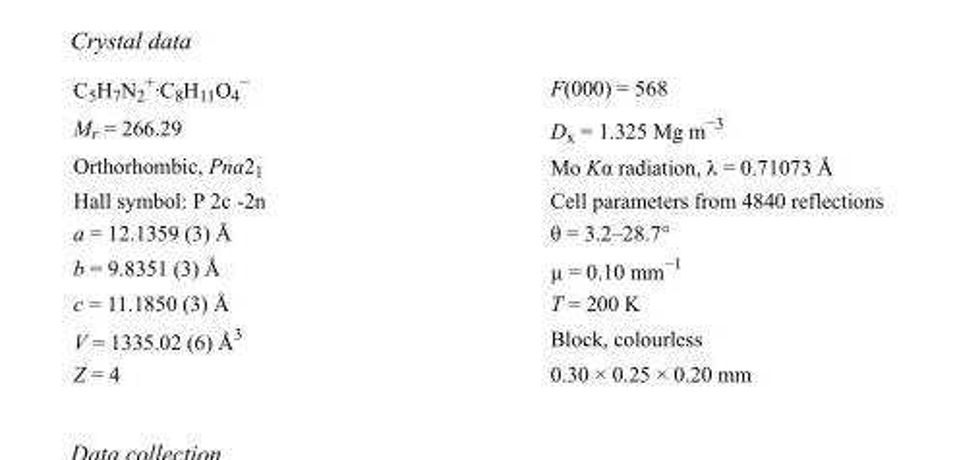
<table><tbody><tr><td>C<sub>5</sub>H<sub>7</sub>N<sub>2</sub> <sup>+</sup>·C<sub>8</sub>H<sub>11</sub>O<sub>4</sub> <sup>−</sup></td><td>F(000) = 568</td></tr><tr><td>M<sub>r</sub> = 266.29</td><td>D<sub>x</sub> = 1.325 Mg m<sup>−3</sup></td></tr><tr><td>Orthorhombic, Pna2<sub>1</sub></td><td>Mo Kα radiation, λ = 0.71073 Å</td></tr><tr><td>Hall symbol: P 2c -2n</td><td>Cell parameters from 4840 reflections</td></tr><tr><td>a = 12.1359 (3) Å</td><td>θ = 3.2–28.7°</td></tr><tr><td>b = 9.8351 (3) Å</td><td>µ = 0.10 mm<sup>−1</sup></td></tr><tr><td>c = 11.1850 (3) Å</td><td>T = 200 K</td></tr><tr><td>V = 1335.02 (6) Å<sup>3</sup></td><td>Block, colourless</td></tr><tr><td>Z = 4</td><td>0.30 × 0.25 × 0.20 mm</td></tr></tbody></table>